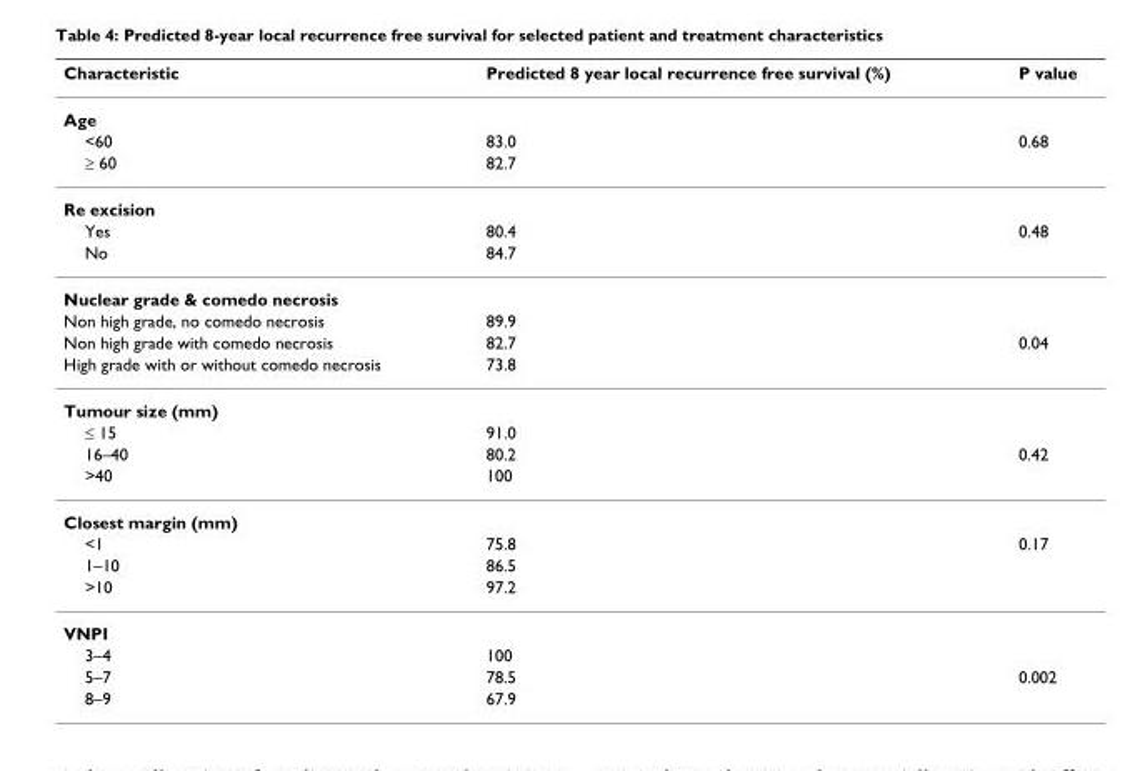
<table><thead><tr><td>Characteristic</td><td>Predicted 8 year local recurrence free survival (%)</td><td>P value</td></tr></thead><tbody><tr><td colspan="3">Age</td></tr><tr><td>&lt;60</td><td>83.0</td><td>0.68</td></tr><tr><td>≥ 60</td><td>82.7</td><td></td></tr><tr><td colspan="3">Re excision</td></tr><tr><td>Yes</td><td>80.4</td><td>0.48</td></tr><tr><td>No</td><td>84.7</td><td></td></tr><tr><td colspan="3">Nuclear grade &amp; comedo necrosis</td></tr><tr><td>Non high grade, no comedo necrosis</td><td>89.9</td><td></td></tr><tr><td>Non high grade with comedo necrosis</td><td>82.7</td><td>0.04</td></tr><tr><td>High grade with or without comedo necrosis</td><td>73.8</td><td></td></tr><tr><td colspan="3">Tumour size (mm)</td></tr><tr><td>≤ 15</td><td>91.0</td><td></td></tr><tr><td>16–40</td><td>80.2</td><td>0.42</td></tr><tr><td>&gt;40</td><td>100</td><td></td></tr><tr><td colspan="3">Closest margin (mm)</td></tr><tr><td>&lt;1</td><td>75.8</td><td>0.17</td></tr><tr><td>1–10</td><td>86.5</td><td></td></tr><tr><td>&gt;10</td><td>97.2</td><td></td></tr><tr><td colspan="3">VNPI</td></tr><tr><td>3–4</td><td>100</td><td></td></tr><tr><td>5–7</td><td>78.5</td><td>0.002</td></tr><tr><td>8–9</td><td>67.9</td><td></td></tr></tbody></table>